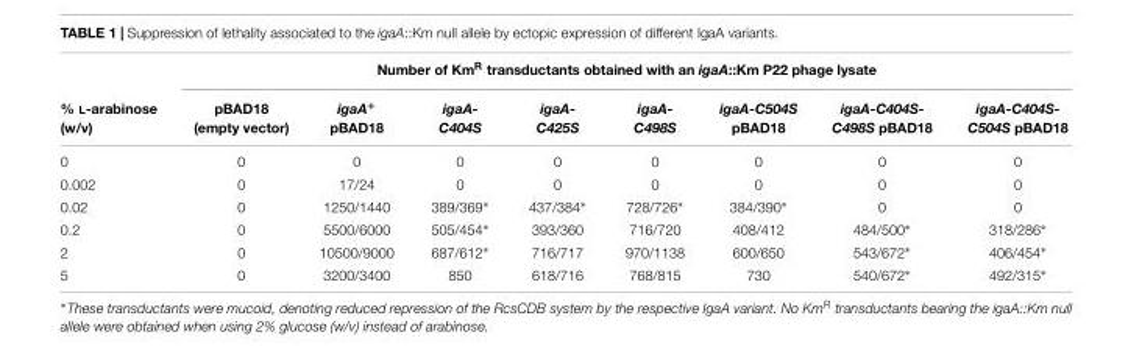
<table><thead><tr><td rowspan="2">% L-arabinose (w/v)</td><td colspan="8">Number of Km<sup>R</sup> transductants obtained with an igaA::Km P22 phage lysate</td></tr><tr><td>pBAD18 (empty vector)</td><td>igaA<sup>+</sup> pBAD18</td><td>igaA- C404S</td><td>igaA- C425S</td><td>igaA- C498S</td><td>igaA-C504S pBAD18</td><td>igaA-C404S- C498S pBAD18</td><td>igaA-C404S- C504S pBAD18</td></tr></thead><tbody><tr><td>0</td><td>0</td><td>0</td><td>0</td><td>0</td><td>0</td><td>0</td><td>0</td><td>0</td></tr><tr><td>0.002</td><td>0</td><td>17/24</td><td>0</td><td>0</td><td>0</td><td>0</td><td>0</td><td>0</td></tr><tr><td>0.02</td><td>0</td><td>1250/1440</td><td>389/369∗</td><td>437/384∗</td><td>728/726∗</td><td>384/390∗</td><td>0</td><td>0</td></tr><tr><td>0.2</td><td>0</td><td>5500/6000</td><td>505/454∗</td><td>393/360</td><td>716/720</td><td>408/412</td><td>484/500∗</td><td>318/286∗</td></tr><tr><td>2</td><td>0</td><td>10500/9000</td><td>687/612∗</td><td>716/717</td><td>970/1138</td><td>600/650</td><td>543/672∗</td><td>406/454∗</td></tr><tr><td>5</td><td>0</td><td>3200/3400</td><td>850</td><td>618/716</td><td>768/815</td><td>730</td><td>540/672∗</td><td>492/315∗</td></tr></tbody></table>